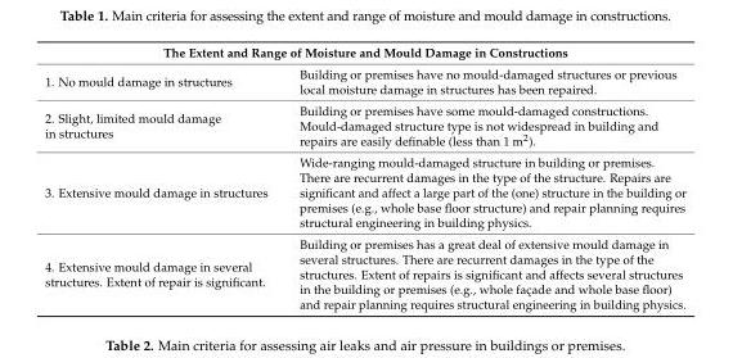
<table><thead><tr><td colspan="2">The Extent and Range of Moisture and Mould Damage in Constructions</td></tr><tr><td>1. No mould damage in structures</td><td>Building or premises have no mould-damaged structures or previous local moisture damage in structures has been repaired.</td></tr></thead><tbody><tr><td>2. Slight, limited mould damage in structures</td><td>Building or premises have some mould-damaged constructions. Mould-damaged structure type is not widespread in building and repairs are easily definable (less than 1 m<sup>2</sup>).</td></tr><tr><td>3. Extensive mould damage in structures</td><td>Wide-ranging mould-damaged structure in building or premises. There are recurrent damages in the type of the structure. Repairs are significant and affect a large part of the (one) structure in the building or premises (e.g., whole base floor structure) and repair planning requires structural engineering in building physics.</td></tr><tr><td>4. Extensive mould damage in several structures. Extent of repair is significant.</td><td>Building or premises has a great deal of extensive mould damage in several structures. There are recurrent damages in the type of the structures. Extent of repairs is significant and affects several structures in the building or premises (e.g., whole façade and whole base floor) and repair planning requires structural engineering in building physics.</td></tr></tbody></table>